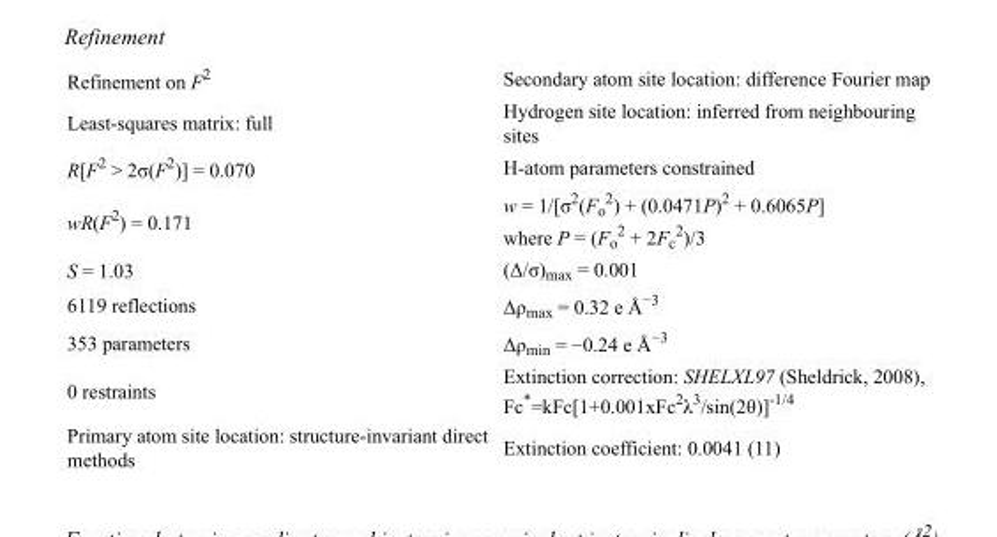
<table><tbody><tr><td>Refinement on F<sup>2</sup></td><td>Secondary atom site location: difference Fourier map</td></tr><tr><td>Least-squares matrix: full</td><td>Hydrogen site location: inferred from neighbouring sites</td></tr><tr><td>R[F<sup>2</sup> &gt; 2σ(F<sup>2</sup>)] = 0.070</td><td>H-atom parameters constrained</td></tr><tr><td>wR(F<sup>2</sup>) = 0.171</td><td>w = 1/[σ<sup>2</sup>(F<sub>o</sub> <sup>2</sup>) + (0.0471P)<sup>2</sup> + 0.6065P] where P = (F<sub>o</sub> <sup>2</sup> + 2F<sub>c</sub> <sup>2</sup>)/3</td></tr><tr><td>S = 1.03</td><td>(Δ/σ)<sub>max</sub> = 0.001</td></tr><tr><td>6119 reflections</td><td>Δρ<sub>max</sub> = 0.32 e Å<sup>−3</sup></td></tr><tr><td>353 parameters</td><td>Δρ<sub>min</sub> = −0.24 e Å<sup>−3</sup></td></tr><tr><td>0 restraints</td><td>Extinction correction: SHELXL97 (Sheldrick, 2008), Fc*=kFc[1+0.001xFc<sup>2</sup>λ<sup>3</sup>/sin(2θ)]<sup>-1/4</sup></td></tr><tr><td>Primary atom site location: structure-invariant direct methods</td><td>Extinction coefficient: 0.0041 (11)</td></tr></tbody></table>